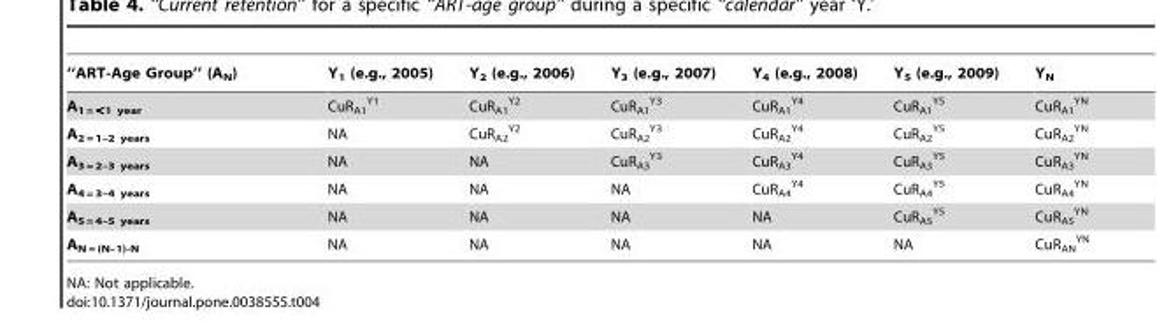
<table><thead><tr><td>‘‘ART-Age Group’’ (AN)</td><td>Y<sub>1</sub> (e.g., 2005)</td><td>Y<sub>2</sub> (e.g., 2006)</td><td>Y<sub>3</sub> (e.g., 2007)</td><td>Y<sub>4</sub> (e.g., 2008)</td><td>Y<sub>5</sub> (e.g., 2009)</td><td>Y<sub>N</sub></td></tr></thead><tbody><tr><td>A<sub>1 = &lt;1 year</sub></td><td>CuR<sub>A1</sub> <sup>Y1</sup></td><td>CuR<sub>A1</sub> <sup>Y2</sup></td><td>CuR<sub>A1</sub> <sup>Y3</sup></td><td>CuR<sub>A1</sub> <sup>Y4</sup></td><td>CuR<sub>A1</sub> <sup>Y5</sup></td><td>CuR<sub>A1</sub> <sup>YN</sup></td></tr><tr><td>A<sub>2 = 1–2 years</sub></td><td>NA</td><td>CuR<sub>A2</sub> <sup>Y2</sup></td><td>CuR<sub>A2</sub> <sup>Y3</sup></td><td>CuR<sub>A2</sub> <sup>Y4</sup></td><td>CuR<sub>A2</sub> <sup>Y5</sup></td><td>CuR<sub>A2</sub> <sup>YN</sup></td></tr><tr><td>A<sub>3 = 2–3 years</sub></td><td>NA</td><td>NA</td><td>CuR<sub>A3</sub> <sup>Y3</sup></td><td>CuR<sub>A3</sub> <sup>Y4</sup></td><td>CuR<sub>A3</sub> <sup>Y5</sup></td><td>CuR<sub>A3</sub> <sup>YN</sup></td></tr><tr><td>A<sub>4 = 3–4 years</sub></td><td>NA</td><td>NA</td><td>NA</td><td>CuR<sub>A4</sub> <sup>Y4</sup></td><td>CuR<sub>A4</sub> <sup>Y5</sup></td><td>CuR<sub>A4</sub> <sup>YN</sup></td></tr><tr><td>A<sub>5 = 4–5 years</sub></td><td>NA</td><td>NA</td><td>NA</td><td>NA</td><td>CuR<sub>A5</sub> <sup>Y5</sup></td><td>CuR<sub>A5</sub> <sup>YN</sup></td></tr><tr><td>A<sub>N = (N–1)-N</sub></td><td>NA</td><td>NA</td><td>NA</td><td>NA</td><td>NA</td><td>CuR<sub>AN</sub> <sup>YN</sup></td></tr></tbody></table>